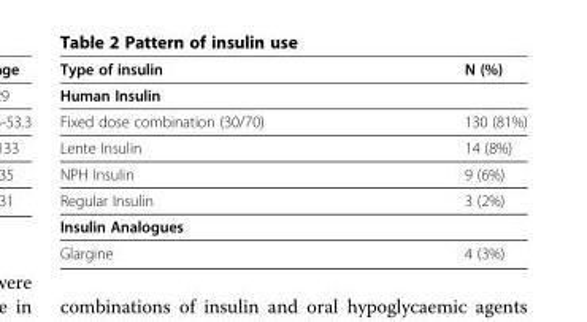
<table><thead><tr><td>Type of insulin</td><td>N (%)</td></tr></thead><tbody><tr><td colspan="2">Human Insulin</td></tr><tr><td>Fixed dose combination (30/70)</td><td>130 (81%)</td></tr><tr><td>Lente Insulin</td><td>14 (8%)</td></tr><tr><td>NPH Insulin</td><td>9 (6%)</td></tr><tr><td>Regular Insulin</td><td>3 (2%)</td></tr><tr><td colspan="2">Insulin Analogues</td></tr><tr><td>Glargine</td><td>4 (3%)</td></tr></tbody></table>